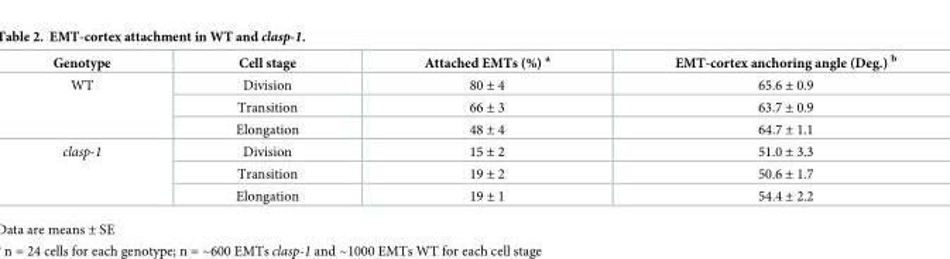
<table><thead><tr><td>Genotype</td><td>Cell stage</td><td>Attached EMTs (%) <sup>a</sup></td><td>EMT-cortex anchoring angle (Deg.) <sup>b</sup></td></tr></thead><tbody><tr><td rowspan="3">WT</td><td>Division</td><td>80 ± 4</td><td>65.6 ± 0.9</td></tr><tr><td>Transition</td><td>66 ± 3</td><td>63.7 ± 0.9</td></tr><tr><td>Elongation</td><td>48 ± 4</td><td>64.7 ± 1.1</td></tr><tr><td rowspan="3">clasp-1</td><td>Division</td><td>15 ± 2</td><td>51.0 ± 3.3</td></tr><tr><td>Transition</td><td>19 ± 2</td><td>50.6 ± 1.7</td></tr><tr><td>Elongation</td><td>19 ± 1</td><td>54.4 ± 2.2</td></tr></tbody></table>